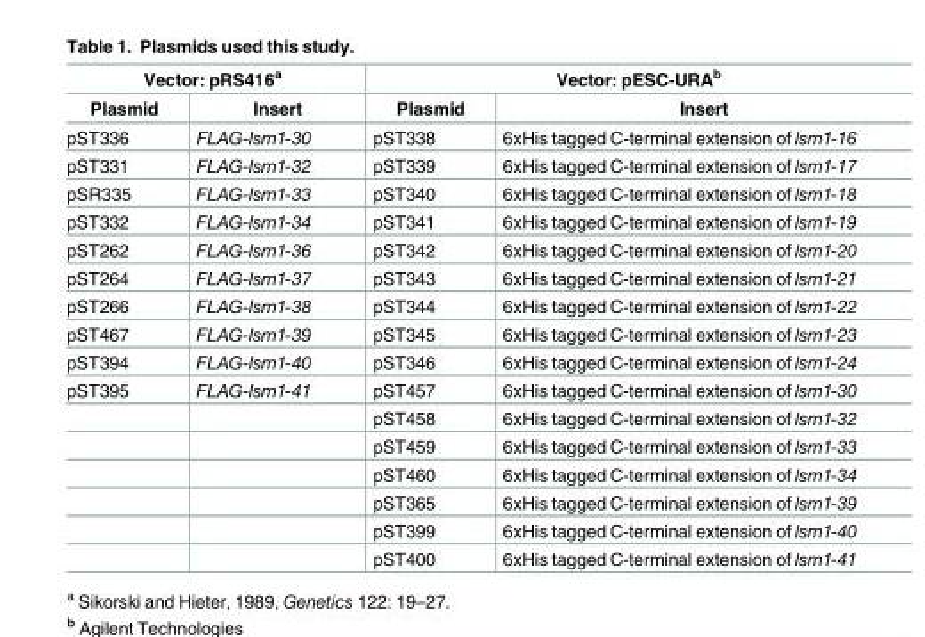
<table><thead><tr><td colspan="2">Vector: pRS416<sup>a</sup></td><td colspan="2">Vector: pESC-URA<sup>b</sup></td></tr><tr><td>Plasmid</td><td>Insert</td><td>Plasmid</td><td>Insert</td></tr></thead><tbody><tr><td>pST336</td><td>FLAG-lsm1-30</td><td>pST338</td><td>6xHis tagged C-terminal extension of lsm1-16</td></tr><tr><td>pST331</td><td>FLAG-lsm1-32</td><td>pST339</td><td>6xHis tagged C-terminal extension of lsm1-17</td></tr><tr><td>pSR335</td><td>FLAG-lsm1-33</td><td>pST340</td><td>6xHis tagged C-terminal extension of lsm1-18</td></tr><tr><td>pST332</td><td>FLAG-lsm1-34</td><td>pST341</td><td>6xHis tagged C-terminal extension of lsm1-19</td></tr><tr><td>pST262</td><td>FLAG-lsm1-36</td><td>pST342</td><td>6xHis tagged C-terminal extension of lsm1-20</td></tr><tr><td>pST264</td><td>FLAG-lsm1-37</td><td>pST343</td><td>6xHis tagged C-terminal extension of lsm1-21</td></tr><tr><td>pST266</td><td>FLAG-lsm1-38</td><td>pST344</td><td>6xHis tagged C-terminal extension of lsm1-22</td></tr><tr><td>pST467</td><td>FLAG-lsm1-39</td><td>pST345</td><td>6xHis tagged C-terminal extension of lsm1-23</td></tr><tr><td>pST394</td><td>FLAG-lsm1-40</td><td>pST346</td><td>6xHis tagged C-terminal extension of lsm1-24</td></tr><tr><td rowspan="7">pST395</td><td>FLAG-lsm1-41</td><td>pST457</td><td>6xHis tagged C-terminal extension of lsm1-30</td></tr><tr><td></td><td>pST458</td><td>6xHis tagged C-terminal extension of lsm1-32</td></tr><tr><td></td><td>pST459</td><td>6xHis tagged C-terminal extension of lsm1-33</td></tr><tr><td></td><td>pST460</td><td>6xHis tagged C-terminal extension of lsm1-34</td></tr><tr><td></td><td>pST365</td><td>6xHis tagged C-terminal extension of lsm1-39</td></tr><tr><td></td><td>pST399</td><td>6xHis tagged C-terminal extension of lsm1-40</td></tr><tr><td></td><td>pST400</td><td>6xHis tagged C-terminal extension of lsm1-41</td></tr></tbody></table>